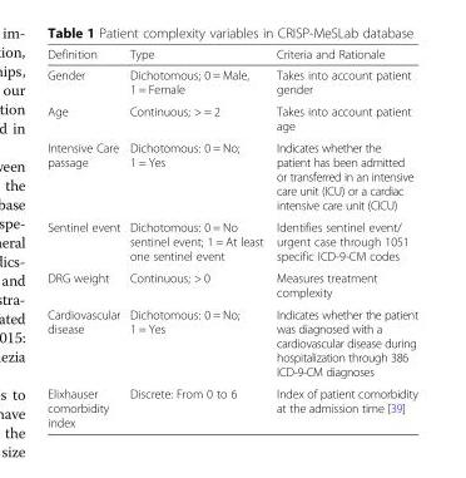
<table><thead><tr><td>Definition</td><td>Type</td><td>Criteria and Rationale</td></tr></thead><tbody><tr><td>Gender</td><td>Dichotomous; 0 = Male, 1 = Female</td><td>Takes into account patient gender</td></tr><tr><td>Age</td><td>Continuous; &gt; = 2</td><td>Takes into account patient age</td></tr><tr><td>Intensive Care passage</td><td>Dichotomous: 0 = No; 1 = Yes</td><td>Indicates whether the patient has been admitted or transferred in an intensive care unit (ICU) or a cardiac intensive care unit (CICU)</td></tr><tr><td>Sentinel event</td><td>Dichotomous: 0 = No sentinel event; 1 = At least one sentinel event</td><td>Identifies sentinel event/ urgent case through 1051 specific ICD-9-CM codes</td></tr><tr><td>DRG weight</td><td>Continuous; &gt; 0</td><td>Measures treatment complexity</td></tr><tr><td>Cardiovascular disease</td><td>Dichotomous: 0 = No; 1 = Yes</td><td>Indicates whether the patient was diagnosed with a cardiovascular disease during hospitalization through 386 ICD-9-CM diagnoses</td></tr><tr><td>Elixhauser comorbidity index</td><td>Discrete: From 0 to 6</td><td>Index of patient comorbidity at the admission time [39]</td></tr></tbody></table>